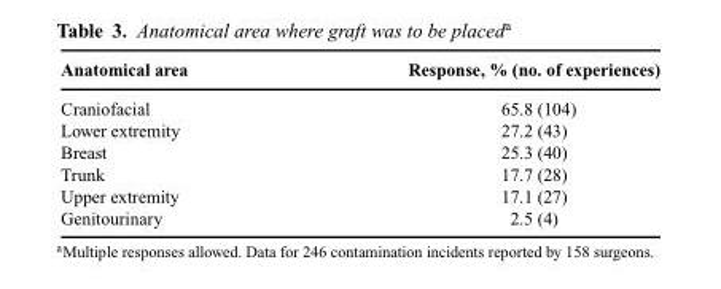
<table><thead><tr><td>Anatomical area</td><td>Response, % (no. of experiences)</td></tr></thead><tbody><tr><td>Craniofacial</td><td>65.8 (104)</td></tr><tr><td>Lower extremity</td><td>27.2 (43)</td></tr><tr><td>Breast</td><td>25.3 (40)</td></tr><tr><td>Trunk</td><td>17.7 (28)</td></tr><tr><td>Upper extremity</td><td>17.1 (27)</td></tr><tr><td>Genitourinary</td><td>2.5 (4)</td></tr></tbody></table>